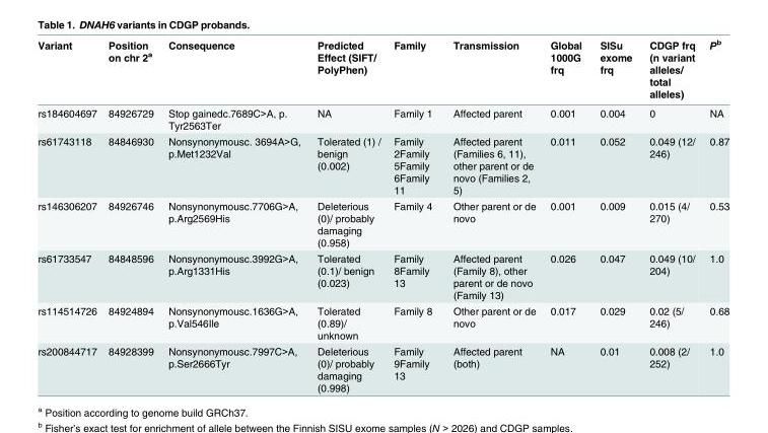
<table><thead><tr><td>Variant</td><td>Position on chr 2<sup>a</sup></td><td>Consequence</td><td>Predicted Effect (SIFT/ PolyPhen)</td><td>Family</td><td>Transmission</td><td>Global 1000G frq</td><td>SISu exome frq</td><td>CDGP frq (n variant alleles/ total alleles)</td><td>P<sup>b</sup></td></tr></thead><tbody><tr><td>rs184604697</td><td>84926729</td><td>Stop gainedc.7689C&gt;A, p. Tyr2563Ter</td><td>NA</td><td>Family 1</td><td>Affected parent</td><td>0.001</td><td>0.004</td><td>0</td><td>NA</td></tr><tr><td>rs61743118</td><td>84846930</td><td>Nonsynonymousc. 3694A&gt;G, p.Met1232Val</td><td>Tolerated (1) / benign (0.002)</td><td>Family 2Family 5Family 6Family 11</td><td>Affected parent (Families 6, 11), other parent or de novo (Families 2, 5)</td><td>0.011</td><td>0.052</td><td>0.049 (12/ 246)</td><td>0.87</td></tr><tr><td>rs146306207</td><td>84926746</td><td>Nonsynonymousc.7706G&gt;A, p.Arg2569His</td><td>Deleterious (0)/ probably damaging (0.958)</td><td>Family 4</td><td>Other parent or de novo</td><td>0.001</td><td>0.009</td><td>0.015 (4/ 270)</td><td>0.53</td></tr><tr><td>rs61733547</td><td>84848596</td><td>Nonsynonymousc.3992G&gt;A, p.Arg1331His</td><td>Tolerated (0.1)/ benign (0.023)</td><td>Family 8Family 13</td><td>Affected parent (Family 8), other parent or de novo (Family 13)</td><td>0.026</td><td>0.047</td><td>0.049 (10/ 204)</td><td>1.0</td></tr><tr><td>rs114514726</td><td>84924894</td><td>Nonsynonymousc.1636G&gt;A, p.Val546Ile</td><td>Tolerated (0.89)/ unknown</td><td>Family 8</td><td>Other parent or de novo</td><td>0.017</td><td>0.029</td><td>0.02 (5/ 246)</td><td>0.68</td></tr><tr><td>rs200844717</td><td>84928399</td><td>Nonsynonymousc.7997C&gt;A, p.Ser2666Tyr</td><td>Deleterious (0)/ probably damaging (0.998)</td><td>Family 9Family 13</td><td>Affected parent (both)</td><td>NA</td><td>0.01</td><td>0.008 (2/ 252)</td><td>1.0</td></tr></tbody></table>